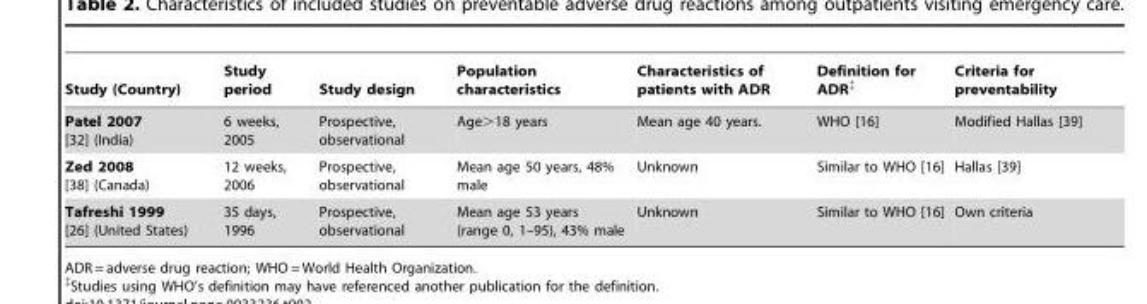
<table><thead><tr><td>Study (Country)</td><td>Study period</td><td>Study design</td><td>Population characteristics</td><td>Characteristics of patients with ADR</td><td>Definition for ADR‡</td><td>Criteria for preventability</td></tr></thead><tbody><tr><td>Patel 2007 [32] (India)</td><td>6 weeks, 2005</td><td>Prospective, observational</td><td>Age&gt;18 years</td><td>Mean age 40 years.</td><td>WHO [16]</td><td>Modified Hallas [39]</td></tr><tr><td>Zed 2008 [38] (Canada)</td><td>12 weeks, 2006</td><td>Prospective, observational</td><td>Mean age 50 years, 48% male</td><td>Unknown</td><td>Similar to WHO [16]</td><td>Hallas [39]</td></tr><tr><td>Tafreshi 1999 [26] (United States)</td><td>35 days, 1996</td><td>Prospective, observational</td><td>Mean age 53 years (range 0, 1–95), 43% male</td><td>Unknown</td><td>Similar to WHO [16]</td><td>Own criteria</td></tr></tbody></table>